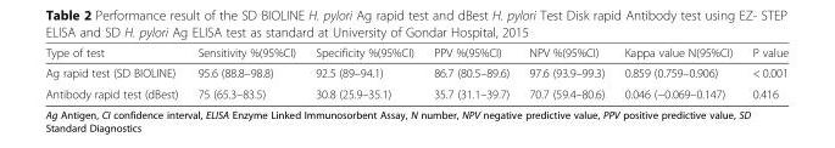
<table><thead><tr><td>Type of test</td><td>Sensitivity %(95%CI)</td><td>Specificity %(95%CI)</td><td>PPV %(95%CI)</td><td>NPV %(95%CI)</td><td>Kappa value N(95%CI)</td><td>P value</td></tr></thead><tbody><tr><td>Ag rapid test (SD BIOLINE)</td><td>95.6 (88.8–98.8)</td><td>92.5 (89–94.1)</td><td>86.7 (80.5–89.6)</td><td>97.6 (93.9–99.3)</td><td>0.859 (0.759–0.906)</td><td>&lt; 0.001</td></tr><tr><td>Antibody rapid test (dBest)</td><td>75 (65.3–83.5)</td><td>30.8 (25.9–35.1)</td><td>35.7 (31.1–39.7)</td><td>70.7 (59.4–80.6)</td><td>0.046 (−0.069–0.147)</td><td>0.416</td></tr></tbody></table>